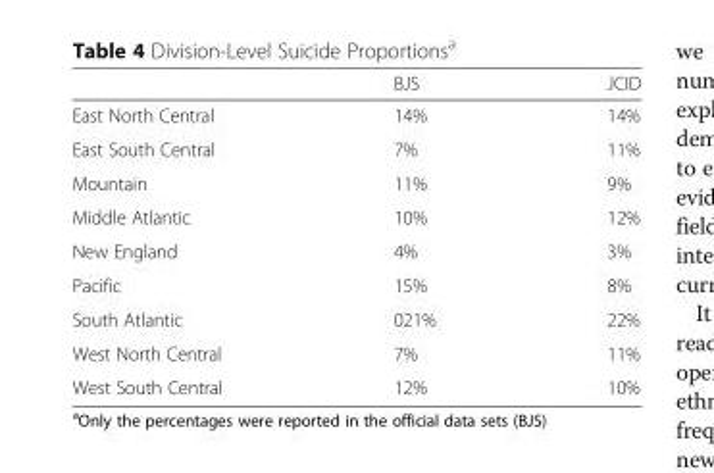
<table><thead><tr><td></td><td>BJS</td><td>JCID</td></tr></thead><tbody><tr><td>East North Central</td><td>14%</td><td>14%</td></tr><tr><td>East South Central</td><td>7%</td><td>11%</td></tr><tr><td>Mountain</td><td>11%</td><td>9%</td></tr><tr><td>Middle Atlantic</td><td>10%</td><td>12%</td></tr><tr><td>New England</td><td>4%</td><td>3%</td></tr><tr><td>Pacific</td><td>15%</td><td>8%</td></tr><tr><td>South Atlantic</td><td>021%</td><td>22%</td></tr><tr><td>West North Central</td><td>7%</td><td>11%</td></tr><tr><td>West South Central</td><td>12%</td><td>10%</td></tr></tbody></table>